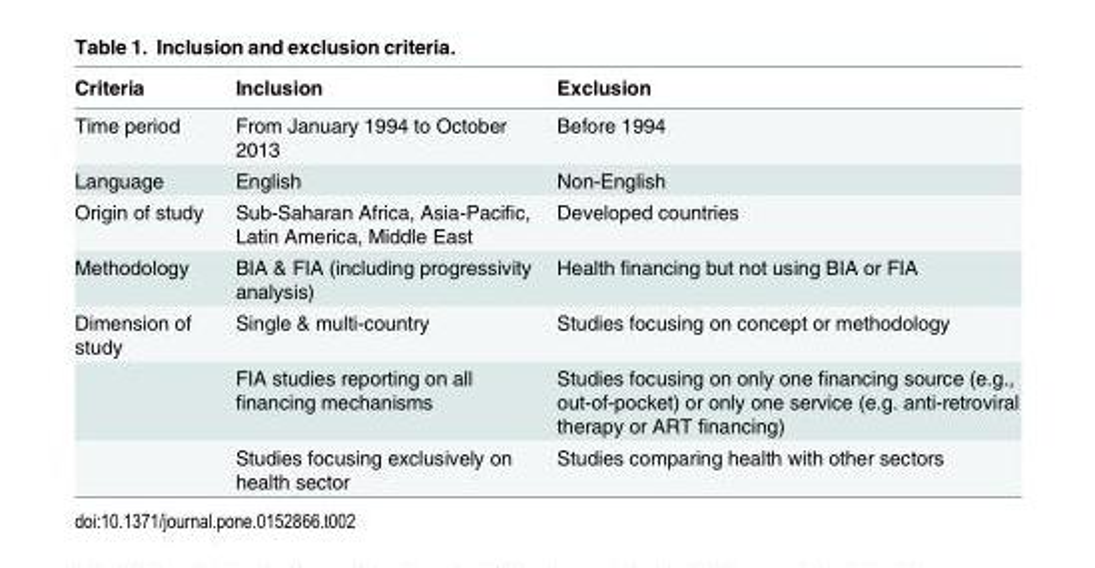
<table><thead><tr><td>Criteria</td><td>Inclusion</td><td>Exclusion</td></tr></thead><tbody><tr><td>Time period</td><td>From January 1994 to October 2013</td><td>Before 1994</td></tr><tr><td>Language</td><td>English</td><td>Non-English</td></tr><tr><td>Origin of study</td><td>Sub-Saharan Africa, Asia-Pacific, Latin America, Middle East</td><td>Developed countries</td></tr><tr><td>Methodology</td><td>BIA &amp; FIA (including progressivity analysis)</td><td>Health financing but not using BIA or FIA</td></tr><tr><td rowspan="3">Dimension of study</td><td>Single &amp; multi-country</td><td>Studies focusing on concept or methodology</td></tr><tr><td>FIA studies reporting on all financing mechanisms</td><td>Studies focusing on only one financing source (e.g., out-of-pocket) or only one service (e.g. anti-retroviral therapy or ART financing)</td></tr><tr><td>Studies focusing exclusively on health sector</td><td>Studies comparing health with other sectors</td></tr></tbody></table>